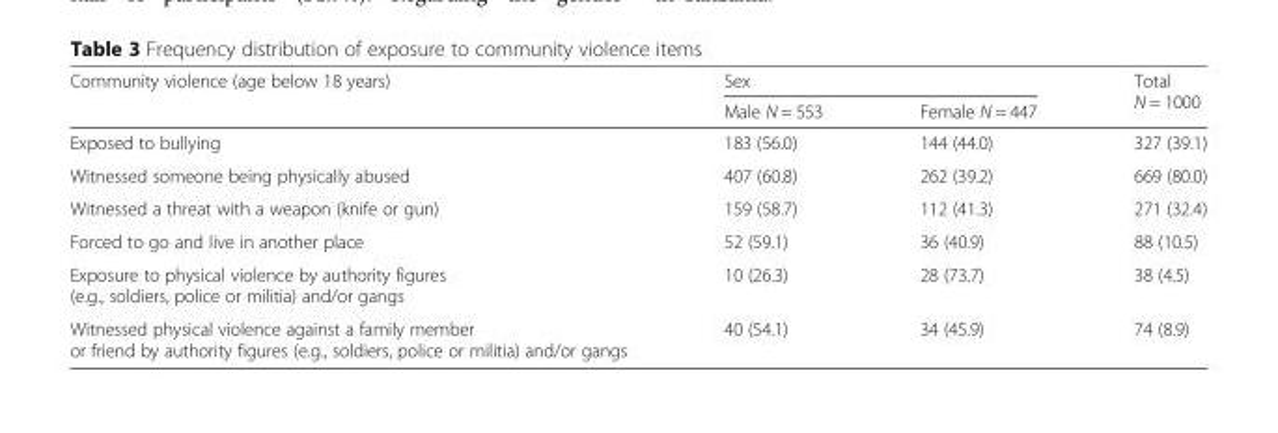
<table><thead><tr><td rowspan="2">Community violence (age below 18 years)</td><td colspan="2">Sex</td><td rowspan="2">Total N = 1000</td></tr><tr><td>Male N = 553</td><td>Female N = 447</td></tr></thead><tbody><tr><td>Exposed to bullying</td><td>183 (56.0)</td><td>144 (44.0)</td><td>327 (39.1)</td></tr><tr><td>Witnessed someone being physically abused</td><td>407 (60.8)</td><td>262 (39.2)</td><td>669 (80.0)</td></tr><tr><td>Witnessed a threat with a weapon (knife or gun)</td><td>159 (58.7)</td><td>112 (41.3)</td><td>271 (32.4)</td></tr><tr><td>Forced to go and live in another place</td><td>52 (59.1)</td><td>36 (40.9)</td><td>88 (10.5)</td></tr><tr><td>Exposure to physical violence by authority figures (e.g., soldiers, police or militia) and/or gangs</td><td>10 (26.3)</td><td>28 (73.7)</td><td>38 (4.5)</td></tr><tr><td>Witnessed physical violence against a family member or friend by authority figures (e.g., soldiers, police or militia) and/or gangs</td><td>40 (54.1)</td><td>34 (45.9)</td><td>74 (8.9)</td></tr></tbody></table>